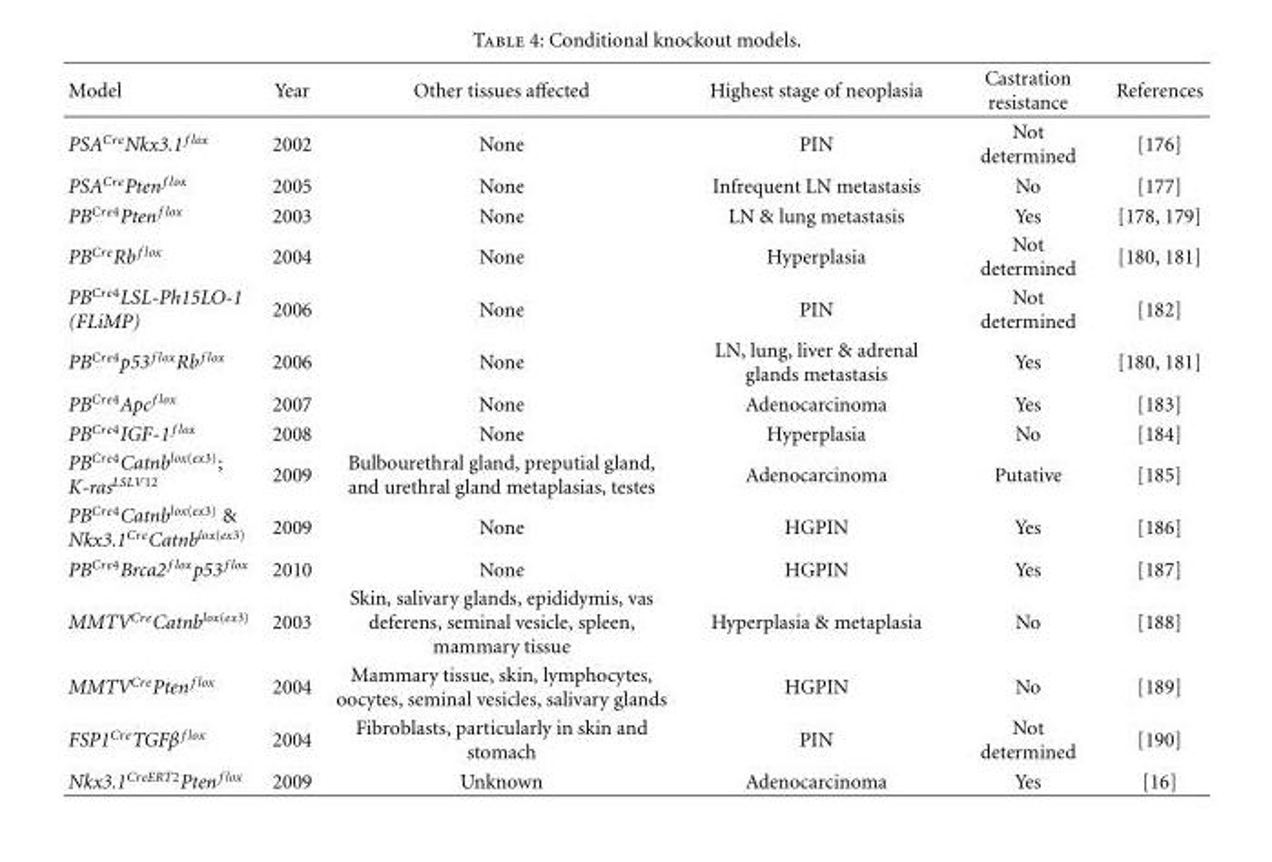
<table><thead><tr><td>Model</td><td>Year</td><td>Other tissues affected</td><td>Highest stage of neoplasia</td><td>Castration resistance</td><td>References</td></tr></thead><tbody><tr><td>PSA<sup>Cre</sup>Nkx3.1 <sup>f lox</sup></td><td>2002</td><td>None</td><td>PIN</td><td>Not determined</td><td>[176]</td></tr><tr><td>PSA<sup>Cre</sup>Pten <sup>f lox</sup></td><td>2005</td><td>None</td><td>Infrequent LN metastasis</td><td>No</td><td>[177]</td></tr><tr><td>PB<sup>Cre4</sup>Pten <sup>f lox</sup></td><td>2003</td><td>None</td><td>LN &amp; lung metastasis</td><td>Yes</td><td>[178, 179]</td></tr><tr><td>PB<sup>Cre</sup>Rb <sup>f lox</sup></td><td>2004</td><td>None</td><td>Hyperplasia</td><td>Not determined</td><td>[180, 181]</td></tr><tr><td>PB<sup>Cre4</sup>LSL-Ph15LO-1 (FLiMP)</td><td>2006</td><td>None</td><td>PIN</td><td>Not determined</td><td>[182]</td></tr><tr><td>PB<sup>Cre4</sup>p53 <sup>f lox</sup>Rb <sup>f lox</sup></td><td>2006</td><td>None</td><td>LN, lung, liver &amp; adrenal glands metastasis</td><td>Yes</td><td>[180, 181]</td></tr><tr><td>PB<sup>Cre4</sup>Apc <sup>f lox</sup></td><td>2007</td><td>None</td><td>Adenocarcinoma</td><td>Yes</td><td>[183]</td></tr><tr><td>PB<sup>Cre4</sup>IGF-1 <sup>f lox</sup></td><td>2008</td><td>None</td><td>Hyperplasia</td><td>No</td><td>[184]</td></tr><tr><td>PB<sup>Cre4</sup>Catnb<sup>lox(ex3)</sup>; K-ras<sup>LSLV12</sup></td><td>2009</td><td>Bulbourethral gland, preputial gland, and urethral gland metaplasias, testes</td><td>Adenocarcinoma</td><td>Putative</td><td>[185]</td></tr><tr><td>PB<sup>Cre4</sup>Catnb<sup>lox(ex3)</sup> &amp; Nkx3.1<sup>Cre</sup>Catnb<sup>lox(ex3)</sup></td><td>2009</td><td>None</td><td>HGPIN</td><td>Yes</td><td>[186]</td></tr><tr><td>PB<sup>Cre4</sup>Brca2 <sup>f lox</sup>p53 <sup>f lox</sup></td><td>2010</td><td>None</td><td>HGPIN</td><td>Yes</td><td>[187]</td></tr><tr><td>MMTV<sup>Cre</sup>Catnb<sup>lox(ex3)</sup></td><td>2003</td><td>Skin, salivary glands, epididymis, vas deferens, seminal vesicle, spleen, mammary tissue</td><td>Hyperplasia &amp; metaplasia</td><td>No</td><td>[188]</td></tr><tr><td>MMTV<sup>Cre</sup>Pten <sup>f lox</sup></td><td>2004</td><td>Mammary tissue, skin, lymphocytes, oocytes, seminal vesicles, salivary glands</td><td>HGPIN</td><td>No</td><td>[189]</td></tr><tr><td>FSP1<sup>Cre</sup>TGFβ <sup>f lox</sup></td><td>2004</td><td>Fibroblasts, particularly in skin and stomach</td><td>PIN</td><td>Not determined</td><td>[190]</td></tr><tr><td>Nkx3.1<sup>CreERT2</sup>Pten <sup>f lox</sup></td><td>2009</td><td>Unknown</td><td>Adenocarcinoma</td><td>Yes</td><td>[16]</td></tr></tbody></table>